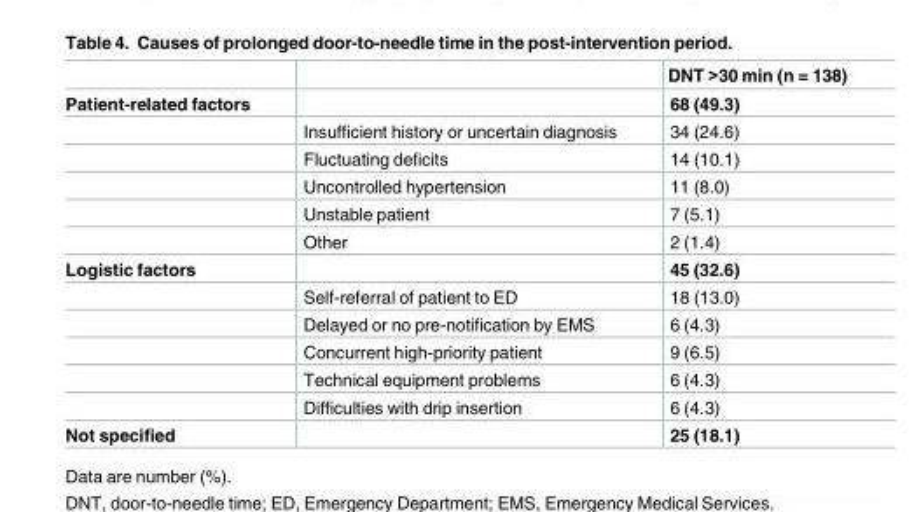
<table><thead><tr><td></td><td></td><td>DNT &gt;30 min (n = 138)</td></tr></thead><tbody><tr><td rowspan="6">Patient-related factors</td><td></td><td>68 (49.3)</td></tr><tr><td>Insufficient history or uncertain diagnosis</td><td>34 (24.6)</td></tr><tr><td>Fluctuating deficits</td><td>14 (10.1)</td></tr><tr><td>Uncontrolled hypertension</td><td>11 (8.0)</td></tr><tr><td>Unstable patient</td><td>7 (5.1)</td></tr><tr><td>Other</td><td>2 (1.4)</td></tr><tr><td rowspan="6">Logistic factors</td><td></td><td>45 (32.6)</td></tr><tr><td>Self-referral of patient to ED</td><td>18 (13.0)</td></tr><tr><td>Delayed or no pre-notification by EMS</td><td>6 (4.3)</td></tr><tr><td>Concurrent high-priority patient</td><td>9 (6.5)</td></tr><tr><td>Technical equipment problems</td><td>6 (4.3)</td></tr><tr><td>Difficulties with drip insertion</td><td>6 (4.3)</td></tr><tr><td>Not specified</td><td></td><td>25 (18.1)</td></tr></tbody></table>